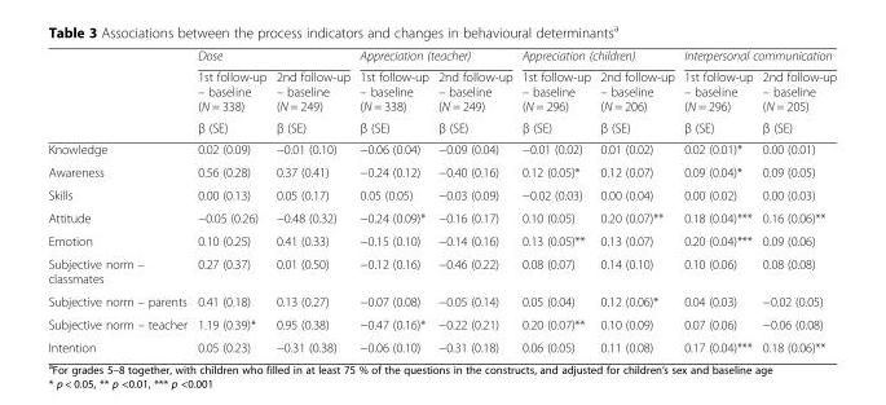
<table><thead><tr><td rowspan="3"></td><td colspan="2">Dose</td><td colspan="2">Appreciation (teacher)</td><td colspan="2">Appreciation (children)</td><td colspan="2">Interpersonal communication</td></tr><tr><td rowspan="2">1st follow-up – baseline (N = 338) β (SE)</td><td rowspan="2">2nd follow-up – baseline (N = 249) β (SE)</td><td rowspan="2">1st follow-up – baseline (N = 338) β (SE)</td><td rowspan="2">2nd follow-up – baseline (N = 249) β (SE)</td><td rowspan="2">1st follow-up – baseline (N = 296) β (SE)</td><td rowspan="2">2nd follow-up – baseline (N = 206) β (SE)</td><td rowspan="2">1st follow-up – baseline (N = 296) β (SE)</td><td rowspan="2">2nd follow-up – baseline (N = 205) β (SE)</td></tr><tr></tr></thead><tbody><tr><td>Knowledge</td><td>0.02 (0.09)</td><td>−0.01 (0.10)</td><td>−0.06 (0.04)</td><td>−0.09 (0.04)</td><td>−0.01 (0.02)</td><td>0.01 (0.02)</td><td>0.02 (0.01)*</td><td>0.00 (0.01)</td></tr><tr><td>Awareness</td><td>0.56 (0.28)</td><td>0.37 (0.41)</td><td>−0.24 (0.12)</td><td>−0.40 (0.16)</td><td>0.12 (0.05)*</td><td>0.12 (0.07)</td><td>0.09 (0.04)*</td><td>0.09 (0.05)</td></tr><tr><td>Skills</td><td>0.00 (0.13)</td><td>0.05 (0.17)</td><td>0.05 (0.05)</td><td>−0.03 (0.09)</td><td>−0.02 (0.03)</td><td>0.00 (0.04)</td><td>0.00 (0.02)</td><td>0.00 (0.03)</td></tr><tr><td>Attitude</td><td>−0.05 (0.26)</td><td>−0.48 (0.32)</td><td>−0.24 (0.09)*</td><td>−0.16 (0.17)</td><td>0.10 (0.05)</td><td>0.20 (0.07)**</td><td>0.18 (0.04)***</td><td>0.16 (0.06)**</td></tr><tr><td>Emotion</td><td>0.10 (0.25)</td><td>0.41 (0.33)</td><td>−0.15 (0.10)</td><td>−0.14 (0.16)</td><td>0.13 (0.05)**</td><td>0.13 (0.07)</td><td>0.20 (0.04)***</td><td>0.09 (0.06)</td></tr><tr><td>Subjective norm – classmates</td><td>0.27 (0.37)</td><td>0.01 (0.50)</td><td>−0.12 (0.16)</td><td>−0.46 (0.22)</td><td>0.08 (0.07)</td><td>0.14 (0.10)</td><td>0.10 (0.06)</td><td>0.08 (0.08)</td></tr><tr><td>Subjective norm – parents</td><td>0.41 (0.18)</td><td>0.13 (0.27)</td><td>−0.07 (0.08)</td><td>−0.05 (0.14)</td><td>0.05 (0.04)</td><td>0.12 (0.06)*</td><td>0.04 (0.03)</td><td>−0.02 (0.05)</td></tr><tr><td>Subjective norm – teacher</td><td>1.19 (0.39)*</td><td>0.95 (0.38)</td><td>−0.47 (0.16)*</td><td>−0.22 (0.21)</td><td>0.20 (0.07)**</td><td>0.10 (0.09)</td><td>0.07 (0.06)</td><td>−0.06 (0.08)</td></tr><tr><td>Intention</td><td>0.05 (0.23)</td><td>−0.31 (0.38)</td><td>−0.06 (0.10)</td><td>−0.31 (0.18)</td><td>0.06 (0.05)</td><td>0.11 (0.08)</td><td>0.17 (0.04)***</td><td>0.18 (0.06)**</td></tr></tbody></table>